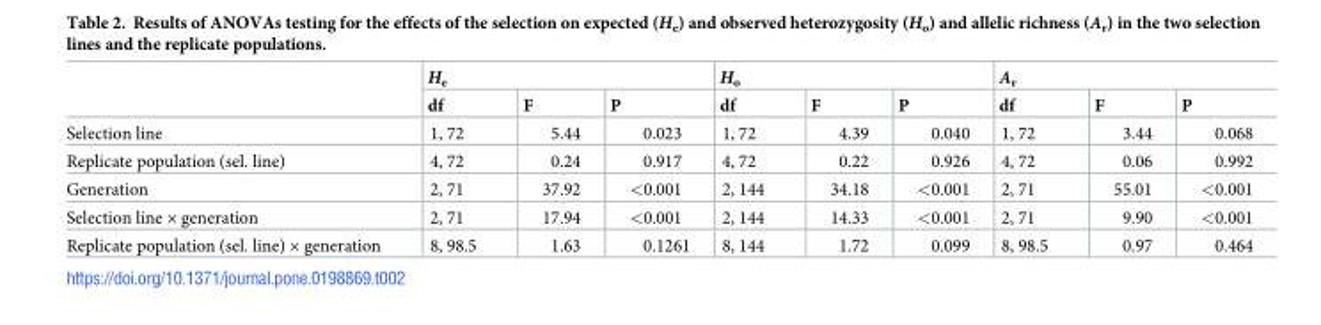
<table><thead><tr><td rowspan="2"></td><td colspan="3">H<sub>e</sub></td><td colspan="3">H<sub>o</sub></td><td colspan="3">A<sub>r</sub></td></tr><tr><td>df</td><td>F</td><td>P</td><td>df</td><td>F</td><td>P</td><td>df</td><td>F</td><td>P</td></tr></thead><tbody><tr><td>Selection line</td><td>1, 72</td><td>5.44</td><td>0.023</td><td>1, 72</td><td>4.39</td><td>0.040</td><td>1, 72</td><td>3.44</td><td>0.068</td></tr><tr><td>Replicate population (sel. line)</td><td>4, 72</td><td>0.24</td><td>0.917</td><td>4, 72</td><td>0.22</td><td>0.926</td><td>4, 72</td><td>0.06</td><td>0.992</td></tr><tr><td>Generation</td><td>2, 71</td><td>37.92</td><td>&lt;0.001</td><td>2, 144</td><td>34.18</td><td>&lt;0.001</td><td>2, 71</td><td>55.01</td><td>&lt;0.001</td></tr><tr><td>Selection line × generation</td><td>2, 71</td><td>17.94</td><td>&lt;0.001</td><td>2, 144</td><td>14.33</td><td>&lt;0.001</td><td>2, 71</td><td>9.90</td><td>&lt;0.001</td></tr><tr><td>Replicate population (sel. line) × generation</td><td>8, 98.5</td><td>1.63</td><td>0.1261</td><td>8, 144</td><td>1.72</td><td>0.099</td><td>8, 98.5</td><td>0.97</td><td>0.464</td></tr></tbody></table>